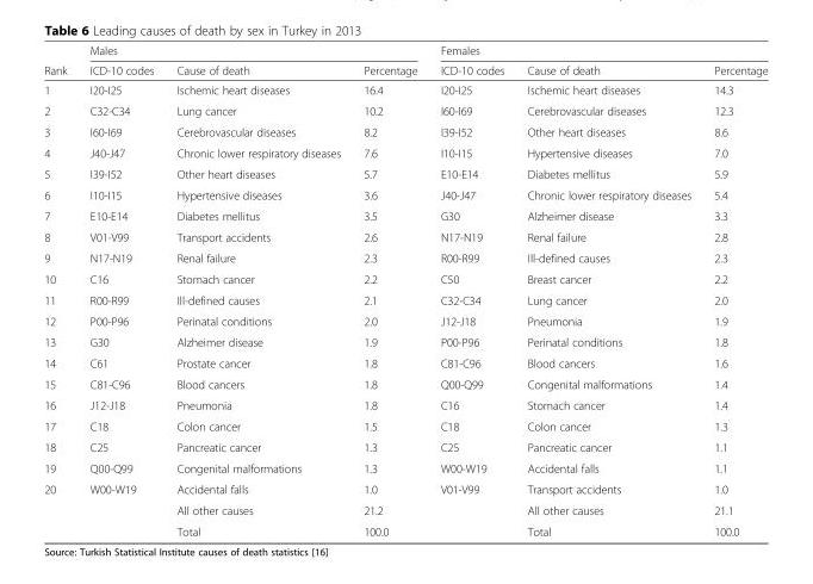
<table><thead><tr><td rowspan="2">Rank</td><td colspan="3">Males</td><td colspan="3">Females</td></tr><tr><td>ICD-10 codes</td><td>Cause of death</td><td>Percentage</td><td>ICD-10 codes</td><td>Cause of death</td><td>Percentage</td></tr></thead><tbody><tr><td>1</td><td>I20-I25</td><td>Ischemic heart diseases</td><td>16.4</td><td>I20-I25</td><td>Ischemic heart diseases</td><td>14.3</td></tr><tr><td>2</td><td>C32-C34</td><td>Lung cancer</td><td>10.2</td><td>I60-I69</td><td>Cerebrovascular diseases</td><td>12.3</td></tr><tr><td>3</td><td>I60-I69</td><td>Cerebrovascular diseases</td><td>8.2</td><td>I39-I52</td><td>Other heart diseases</td><td>8.6</td></tr><tr><td>4</td><td>J40-J47</td><td>Chronic lower respiratory diseases</td><td>7.6</td><td>I10-I15</td><td>Hypertensive diseases</td><td>7.0</td></tr><tr><td>5</td><td>I39-I52</td><td>Other heart diseases</td><td>5.7</td><td>E10-E14</td><td>Diabetes mellitus</td><td>5.9</td></tr><tr><td>6</td><td>I10-I15</td><td>Hypertensive diseases</td><td>3.6</td><td>J40-J47</td><td>Chronic lower respiratory diseases</td><td>5.4</td></tr><tr><td>7</td><td>E10-E14</td><td>Diabetes mellitus</td><td>3.5</td><td>G30</td><td>Alzheimer disease</td><td>3.3</td></tr><tr><td>8</td><td>V01-V99</td><td>Transport accidents</td><td>2.6</td><td>N17-N19</td><td>Renal failure</td><td>2.8</td></tr><tr><td>9</td><td>N17-N19</td><td>Renal failure</td><td>2.3</td><td>R00-R99</td><td>Ill-defined causes</td><td>2.3</td></tr><tr><td>10</td><td>C16</td><td>Stomach cancer</td><td>2.2</td><td>C50</td><td>Breast cancer</td><td>2.2</td></tr><tr><td>11</td><td>R00-R99</td><td>Ill-defined causes</td><td>2.1</td><td>C32-C34</td><td>Lung cancer</td><td>2.0</td></tr><tr><td>12</td><td>P00-P96</td><td>Perinatal conditions</td><td>2.0</td><td>J12-J18</td><td>Pneumonia</td><td>1.9</td></tr><tr><td>13</td><td>G30</td><td>Alzheimer disease</td><td>1.9</td><td>P00-P96</td><td>Perinatal conditions</td><td>1.8</td></tr><tr><td>14</td><td>C61</td><td>Prostate cancer</td><td>1.8</td><td>C81-C96</td><td>Blood cancers</td><td>1.6</td></tr><tr><td>15</td><td>C81-C96</td><td>Blood cancers</td><td>1.8</td><td>Q00-Q99</td><td>Congenital malformations</td><td>1.4</td></tr><tr><td>16</td><td>J12-J18</td><td>Pneumonia</td><td>1.8</td><td>C16</td><td>Stomach cancer</td><td>1.4</td></tr><tr><td>17</td><td>C18</td><td>Colon cancer</td><td>1.5</td><td>C18</td><td>Colon cancer</td><td>1.3</td></tr><tr><td>18</td><td>C25</td><td>Pancreatic cancer</td><td>1.3</td><td>C25</td><td>Pancreatic cancer</td><td>1.1</td></tr><tr><td>19</td><td>Q00-Q99</td><td>Congenital malformations</td><td>1.3</td><td>W00-W19</td><td>Accidental falls</td><td>1.1</td></tr><tr><td rowspan="3">20</td><td>W00-W19</td><td>Accidental falls</td><td>1.0</td><td>V01-V99</td><td>Transport accidents</td><td>1.0</td></tr><tr><td></td><td>All other causes</td><td>21.2</td><td></td><td>All other causes</td><td>21.1</td></tr><tr><td></td><td>Total</td><td>100.0</td><td></td><td>Total</td><td>100.0</td></tr></tbody></table>